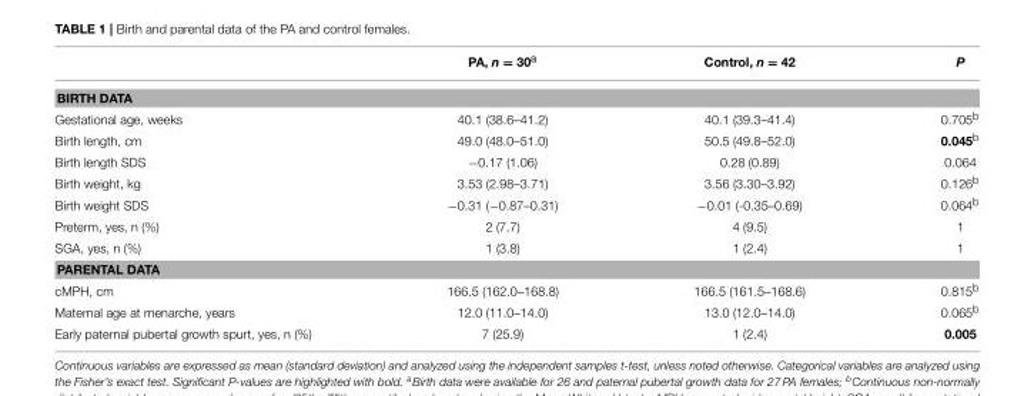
<table><thead><tr><td></td><td>PA, n = 30<sup>a</sup></td><td>Control, n = 42</td><td>P</td></tr></thead><tbody><tr><td colspan="4">BIRTH DATA</td></tr><tr><td>Gestational age, weeks</td><td>40.1 (38.6–41.2)</td><td>40.1 (39.3–41.4)</td><td>0.705<sup>b</sup></td></tr><tr><td>Birth length, cm</td><td>49.0 (48.0–51.0)</td><td>50.5 (49.8–52.0)</td><td>0.045<sup>b</sup></td></tr><tr><td>Birth length SDS</td><td>−0.17 (1.06)</td><td>0.28 (0.89)</td><td>0.064</td></tr><tr><td>Birth weight, kg</td><td>3.53 (2.98–3.71)</td><td>3.56 (3.30–3.92)</td><td>0.126<sup>b</sup></td></tr><tr><td>Birth weight SDS</td><td>−0.31 (−0.87–0.31)</td><td>−0.01 (-0.35–0.69)</td><td>0.064<sup>b</sup></td></tr><tr><td>Preterm, yes, n (%)</td><td>2 (7.7)</td><td>4 (9.5)</td><td>1</td></tr><tr><td>SGA, yes, n (%)</td><td>1 (3.8)</td><td>1 (2.4)</td><td>1</td></tr><tr><td colspan="4">PARENTAL DATA</td></tr><tr><td>cMPH, cm</td><td>166.5 (162.0–168.8)</td><td>166.5 (161.5–168.6)</td><td>0.815<sup>b</sup></td></tr><tr><td>Maternal age at menarche, years</td><td>12.0 (11.0–14.0)</td><td>13.0 (12.0–14.0)</td><td>0.065<sup>b</sup></td></tr><tr><td>Early paternal pubertal growth spurt, yes, n (%)</td><td>7 (25.9)</td><td>1 (2.4)</td><td>0.005</td></tr></tbody></table>